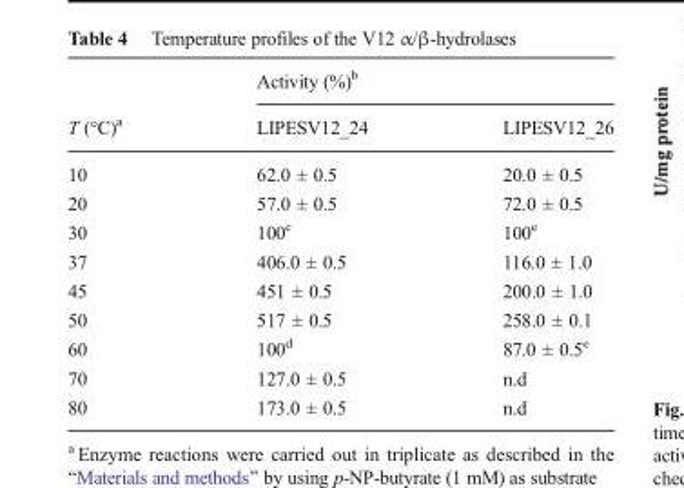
<table><thead><tr><td rowspan="2">T (°C)<sup>a</sup></td><td colspan="2">Activity (%)<sup>b</sup></td></tr><tr><td>LIPESV12_24</td><td>LIPESV12_26</td></tr></thead><tbody><tr><td>10</td><td>62.0 ± 0.5</td><td>20.0 ± 0.5</td></tr><tr><td>20</td><td>57.0 ± 0.5</td><td>72.0 ± 0.5</td></tr><tr><td>30</td><td>100<sup>c</sup></td><td>100<sup>e</sup></td></tr><tr><td>37</td><td>406.0 ± 0.5</td><td>116.0 ± 1.0</td></tr><tr><td>45</td><td>451 ± 0.5</td><td>200.0 ± 1.0</td></tr><tr><td>50</td><td>517 ± 0.5</td><td>258.0 ± 0.1</td></tr><tr><td>60</td><td>100<sup>d</sup></td><td>87.0 ± 0.5<sup>e</sup></td></tr><tr><td>70</td><td>127.0 ± 0.5</td><td>n.d</td></tr><tr><td>80</td><td>173.0 ± 0.5</td><td>n.d</td></tr></tbody></table>